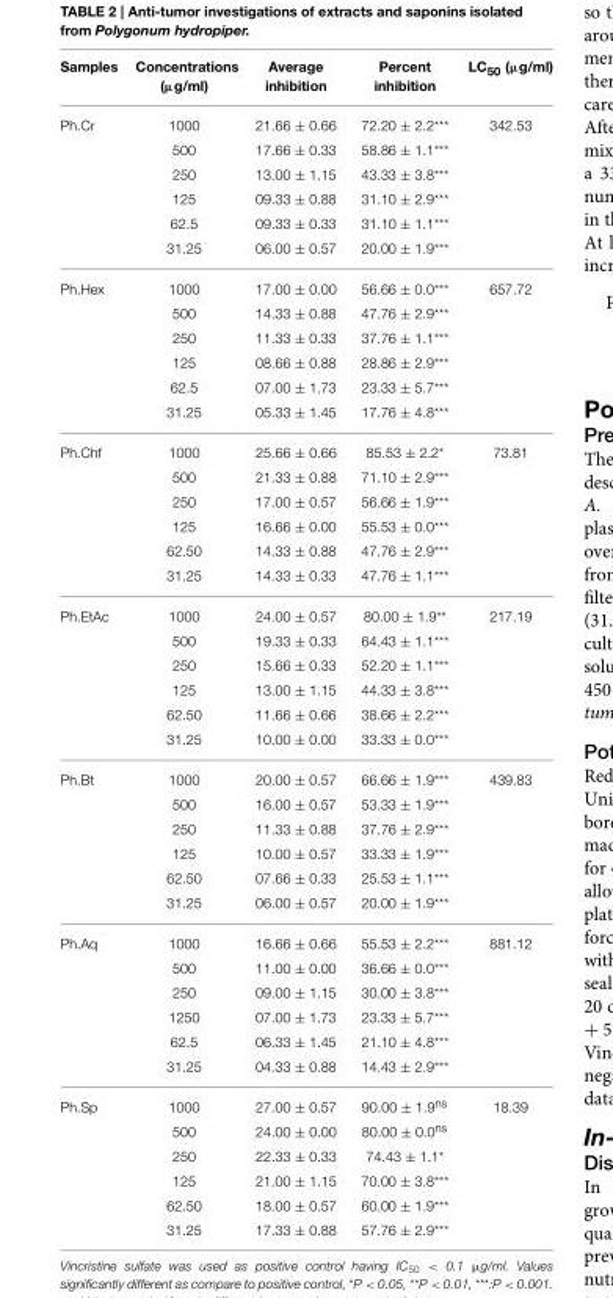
<table><thead><tr><td>Samples</td><td>Concentrations (µg/ml)</td><td>Average inhibition</td><td>Percent inhibition</td><td>LC<sub>50</sub> (µg/ml)</td></tr></thead><tbody><tr><td rowspan="6">Ph.Cr</td><td>1000</td><td>21.66 ± 0.66</td><td>72.20 ± 2.2***</td><td>342.53</td></tr><tr><td>500</td><td>17.66 ± 0.33</td><td>58.86 ± 1.1***</td><td></td></tr><tr><td>250</td><td>13.00 ± 1.15</td><td>43.33 ± 3.8***</td><td></td></tr><tr><td>125</td><td>09.33 ± 0.88</td><td>31.10 ± 2.9***</td><td></td></tr><tr><td>62.5</td><td>09.33 ± 0.33</td><td>31.10 ± 1.1***</td><td></td></tr><tr><td>31.25</td><td>06.00 ± 0.57</td><td>20.00 ± 1.9***</td><td></td></tr><tr><td rowspan="6">Ph.Hex</td><td>1000</td><td>17.00 ± 0.00</td><td>56.66 ± 0.0***</td><td>657.72</td></tr><tr><td>500</td><td>14.33 ± 0.88</td><td>47.76 ± 2.9***</td><td></td></tr><tr><td>250</td><td>11.33 ± 0.33</td><td>37.76 ± 1.1***</td><td></td></tr><tr><td>125</td><td>08.66 ± 0.88</td><td>28.86 ± 2.9***</td><td></td></tr><tr><td>62.5</td><td>07.00 ± 1.73</td><td>23.33 ± 5.7***</td><td></td></tr><tr><td>31.25</td><td>05.33 ± 1.45</td><td>17.76 ± 4.8***</td><td></td></tr><tr><td rowspan="6">Ph.Chf</td><td>1000</td><td>25.66 ± 0.66</td><td>85.53 ± 2.2*</td><td>73.81</td></tr><tr><td>500</td><td>21.33 ± 0.88</td><td>71.10 ± 2.9***</td><td></td></tr><tr><td>250</td><td>17.00 ± 0.57</td><td>56.66 ± 1.9***</td><td></td></tr><tr><td>125</td><td>16.66 ± 0.00</td><td>55.53 ± 0.0***</td><td></td></tr><tr><td>62.50</td><td>14.33 ± 0.88</td><td>47.76 ± 2.9***</td><td></td></tr><tr><td>31.25</td><td>14.33 ± 0.33</td><td>47.76 ± 1.1***</td><td></td></tr><tr><td rowspan="6">Ph.EtAc</td><td>1000</td><td>24.00 ± 0.57</td><td>80.00 ± 1.9**</td><td>217.19</td></tr><tr><td>500</td><td>19.33 ± 0.33</td><td>64.43 ± 1.1***</td><td></td></tr><tr><td>250</td><td>15.66 ± 0.33</td><td>52.20 ± 1.1***</td><td></td></tr><tr><td>125</td><td>13.00 ± 1.15</td><td>44.33 ± 3.8***</td><td></td></tr><tr><td>62.50</td><td>11.66 ± 0.66</td><td>38.66 ± 2.2***</td><td></td></tr><tr><td>31.25</td><td>10.00 ± 0.00</td><td>33.33 ± 0.0***</td><td></td></tr><tr><td rowspan="6">Ph.Bt</td><td>1000</td><td>20.00 ± 0.57</td><td>66.66 ± 1.9***</td><td>439.83</td></tr><tr><td>500</td><td>16.00 ± 0.57</td><td>53.33 ± 1.9***</td><td></td></tr><tr><td>250</td><td>11.33 ± 0.88</td><td>37.76 ± 2.9***</td><td></td></tr><tr><td>125</td><td>10.00 ± 0.57</td><td>33.33 ± 1.9***</td><td></td></tr><tr><td>62.50</td><td>07.66 ± 0.33</td><td>25.53 ± 1.1***</td><td></td></tr><tr><td>31.25</td><td>06.00 ± 0.57</td><td>20.00 ± 1.9***</td><td></td></tr><tr><td rowspan="6">Ph.Aq</td><td>1000</td><td>16.66 ± 0.66</td><td>55.53 ± 2.2***</td><td>881.12</td></tr><tr><td>500</td><td>11.00 ± 0.00</td><td>36.66 ± 0.0***</td><td></td></tr><tr><td>250</td><td>09.00 ± 1.15</td><td>30.00 ± 3.8***</td><td></td></tr><tr><td>1250</td><td>07.00 ± 1.73</td><td>23.33 ± 5.7***</td><td></td></tr><tr><td>62.5</td><td>06.33 ± 1.45</td><td>21.10 ± 4.8***</td><td></td></tr><tr><td>31.25</td><td>04.33 ± 0.88</td><td>14.43 ± 2.9***</td><td></td></tr><tr><td rowspan="6">Ph.Sp</td><td>1000</td><td>27.00 ± 0.57</td><td>90.00 ± 1.9<sup>ns</sup></td><td>18.39</td></tr><tr><td>500</td><td>24.00 ± 0.00</td><td>80.00 ± 0.0<sup>ns</sup></td><td></td></tr><tr><td>250</td><td>22.33 ± 0.33</td><td>74.43 ± 1.1*</td><td></td></tr><tr><td>125</td><td>21.00 ± 1.15</td><td>70.00 ± 3.8***</td><td></td></tr><tr><td>62.50</td><td>18.00 ± 0.57</td><td>60.00 ± 1.9***</td><td></td></tr><tr><td>31.25</td><td>17.33 ± 0.88</td><td>57.76 ± 2.9***</td><td></td></tr></tbody></table>